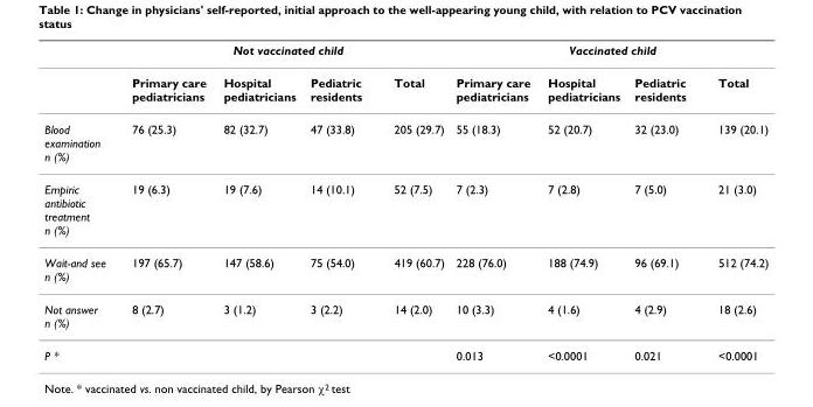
<table><thead><tr><td rowspan="2"></td><td colspan="4">Not vaccinated child</td><td colspan="4">Vaccinated child</td></tr><tr><td>Primary care pediatricians</td><td>Hospital pediatricians</td><td>Pediatric residents</td><td>Total</td><td>Primary care pediatricians</td><td>Hospital pediatricians</td><td>Pediatric residents</td><td>Total</td></tr></thead><tbody><tr><td>Blood examination n (%)</td><td>76 (25.3)</td><td>82 (32.7)</td><td>47 (33.8)</td><td>205 (29.7)</td><td>55 (18.3)</td><td>52 (20.7)</td><td>32 (23.0)</td><td>139 (20.1)</td></tr><tr><td>Empiric antibiotic treatment n (%)</td><td>19 (6.3)</td><td>19 (7.6)</td><td>14 (10.1)</td><td>52 (7.5)</td><td>7 (2.3)</td><td>7 (2.8)</td><td>7 (5.0)</td><td>21 (3.0)</td></tr><tr><td>Wait-and see n (%)</td><td>197 (65.7)</td><td>147 (58.6)</td><td>75 (54.0)</td><td>419 (60.7)</td><td>228 (76.0)</td><td>188 (74.9)</td><td>96 (69.1)</td><td>512 (74.2)</td></tr><tr><td>Not answer n (%)</td><td>8 (2.7)</td><td>3 (1.2)</td><td>3 (2.2)</td><td>14 (2.0)</td><td>10 (3.3)</td><td>4 (1.6)</td><td>4 (2.9)</td><td>18 (2.6)</td></tr><tr><td>P *</td><td></td><td></td><td></td><td></td><td>0.013</td><td>&lt;0.0001</td><td>0.021</td><td>&lt;0.0001</td></tr></tbody></table>